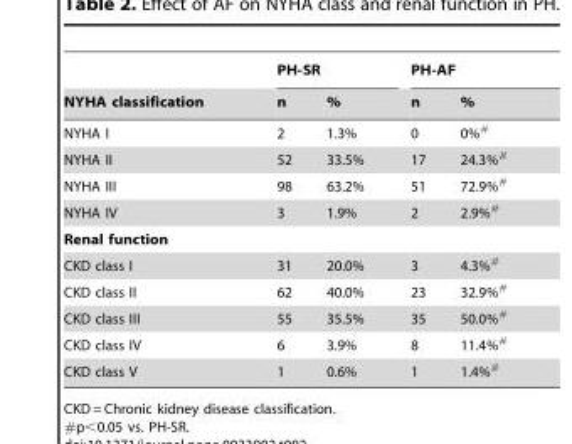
<table><thead><tr><td rowspan="2">NYHA classification</td><td colspan="2">PH-SR</td><td colspan="2">PH-AF</td></tr><tr><td>n</td><td>%</td><td>n</td><td>%</td></tr></thead><tbody><tr><td>NYHA I</td><td>2</td><td>1.3%</td><td>0</td><td>0%#</td></tr><tr><td>NYHA II</td><td>52</td><td>33.5%</td><td>17</td><td>24.3%#</td></tr><tr><td>NYHA III</td><td>98</td><td>63.2%</td><td>51</td><td>72.9%#</td></tr><tr><td>NYHA IV</td><td>3</td><td>1.9%</td><td>2</td><td>2.9%#</td></tr><tr><td colspan="5">Renal function</td></tr><tr><td>CKD class I</td><td>31</td><td>20.0%</td><td>3</td><td>4.3%#</td></tr><tr><td>CKD class II</td><td>62</td><td>40.0%</td><td>23</td><td>32.9%#</td></tr><tr><td>CKD class III</td><td>55</td><td>35.5%</td><td>35</td><td>50.0%#</td></tr><tr><td>CKD class IV</td><td>6</td><td>3.9%</td><td>8</td><td>11.4%#</td></tr><tr><td>CKD class V</td><td>1</td><td>0.6%</td><td>1</td><td>1.4%#</td></tr></tbody></table>